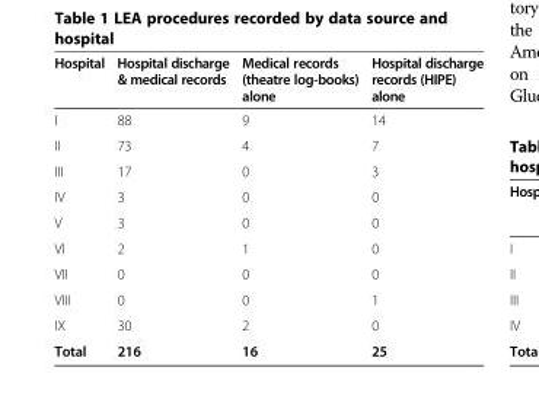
<table><thead><tr><td>Hospital</td><td>Hospital discharge &amp; medical records</td><td>Medical records (theatre log-books) alone</td><td>Hospital discharge records (HIPE) alone</td></tr></thead><tbody><tr><td>I</td><td>88</td><td>9</td><td>14</td></tr><tr><td>II</td><td>73</td><td>4</td><td>7</td></tr><tr><td>III</td><td>17</td><td>0</td><td>3</td></tr><tr><td>IV</td><td>3</td><td>0</td><td>0</td></tr><tr><td>V</td><td>3</td><td>0</td><td>0</td></tr><tr><td>VI</td><td>2</td><td>1</td><td>0</td></tr><tr><td>VII</td><td>0</td><td>0</td><td>0</td></tr><tr><td>VIII</td><td>0</td><td>0</td><td>1</td></tr><tr><td>IX</td><td>30</td><td>2</td><td>0</td></tr><tr><td>Total</td><td>216</td><td>16</td><td>25</td></tr></tbody></table>